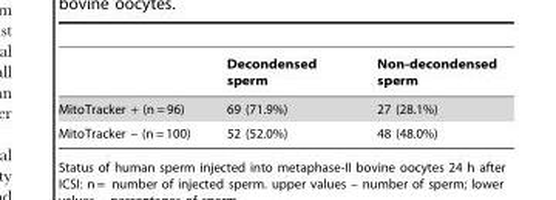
<table><thead><tr><td></td><td>Decondensed sperm</td><td>Non-decondensed sperm</td></tr></thead><tbody><tr><td>MitoTracker + (n = 96)</td><td>69 (71.9%)</td><td>27 (28.1%)</td></tr><tr><td>MitoTracker – (n = 100)</td><td>52 (52.0%)</td><td>48 (48.0%)</td></tr></tbody></table>